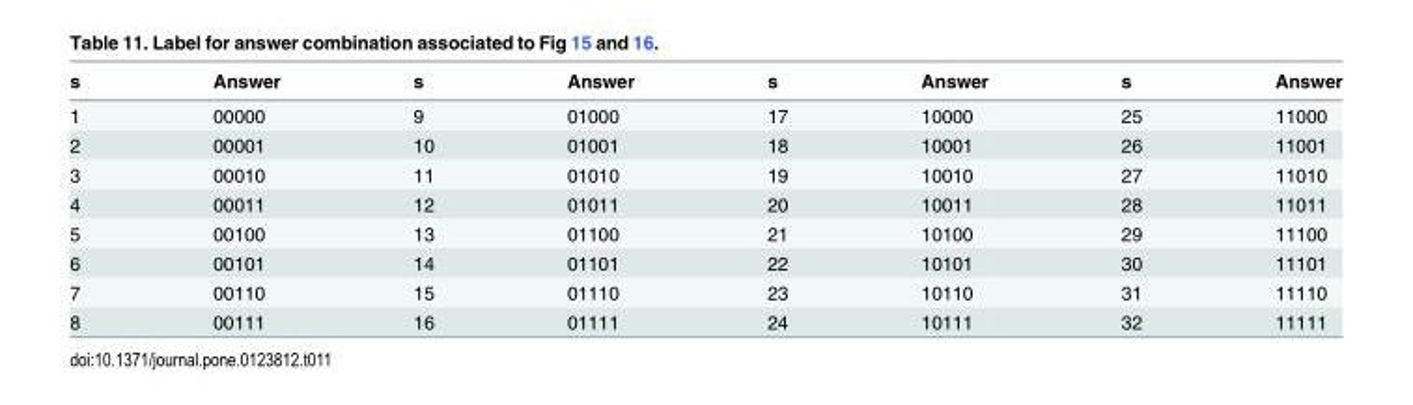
<table><thead><tr><td>s</td><td>Answer</td><td>s</td><td>Answer</td><td>s</td><td>Answer</td><td>s</td><td>Answer</td></tr></thead><tbody><tr><td>1</td><td>00000</td><td>9</td><td>01000</td><td>17</td><td>10000</td><td>25</td><td>11000</td></tr><tr><td>2</td><td>00001</td><td>10</td><td>01001</td><td>18</td><td>10001</td><td>26</td><td>11001</td></tr><tr><td>3</td><td>00010</td><td>11</td><td>01010</td><td>19</td><td>10010</td><td>27</td><td>11010</td></tr><tr><td>4</td><td>00011</td><td>12</td><td>01011</td><td>20</td><td>10011</td><td>28</td><td>11011</td></tr><tr><td>5</td><td>00100</td><td>13</td><td>01100</td><td>21</td><td>10100</td><td>29</td><td>11100</td></tr><tr><td>6</td><td>00101</td><td>14</td><td>01101</td><td>22</td><td>10101</td><td>30</td><td>11101</td></tr><tr><td>7</td><td>00110</td><td>15</td><td>01110</td><td>23</td><td>10110</td><td>31</td><td>11110</td></tr><tr><td>8</td><td>00111</td><td>16</td><td>01111</td><td>24</td><td>10111</td><td>32</td><td>11111</td></tr></tbody></table>